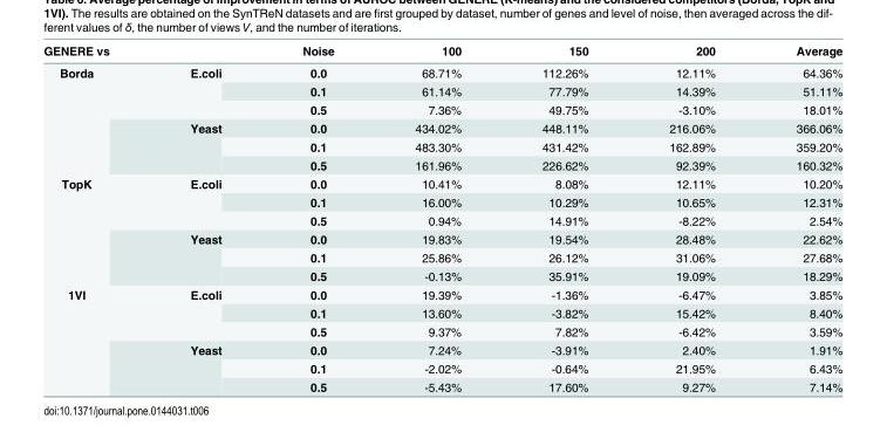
<table><thead><tr><td>GENERE vs</td><td></td><td>Noise</td><td>100</td><td>150</td><td>200</td><td>Average</td></tr></thead><tbody><tr><td rowspan="6">Borda</td><td rowspan="3">E.coli</td><td>0.0</td><td>68.71%</td><td>112.26%</td><td>12.11%</td><td>64.36%</td></tr><tr><td>0.1</td><td>61.14%</td><td>77.79%</td><td>14.39%</td><td>51.11%</td></tr><tr><td>0.5</td><td>7.36%</td><td>49.75%</td><td>-3.10%</td><td>18.01%</td></tr><tr><td rowspan="3">Yeast</td><td>0.0</td><td>434.02%</td><td>448.11%</td><td>216.06%</td><td>366.06%</td></tr><tr><td>0.1</td><td>483.30%</td><td>431.42%</td><td>162.89%</td><td>359.20%</td></tr><tr><td>0.5</td><td>161.96%</td><td>226.62%</td><td>92.39%</td><td>160.32%</td></tr><tr><td rowspan="6">TopK</td><td rowspan="3">E.coli</td><td>0.0</td><td>10.41%</td><td>8.08%</td><td>12.11%</td><td>10.20%</td></tr><tr><td>0.1</td><td>16.00%</td><td>10.29%</td><td>10.65%</td><td>12.31%</td></tr><tr><td>0.5</td><td>0.94%</td><td>14.91%</td><td>-8.22%</td><td>2.54%</td></tr><tr><td rowspan="3">Yeast</td><td>0.0</td><td>19.83%</td><td>19.54%</td><td>28.48%</td><td>22.62%</td></tr><tr><td>0.1</td><td>25.86%</td><td>26.12%</td><td>31.06%</td><td>27.68%</td></tr><tr><td>0.5</td><td>-0.13%</td><td>35.91%</td><td>19.09%</td><td>18.29%</td></tr><tr><td rowspan="6">1VI</td><td rowspan="3">E.coli</td><td>0.0</td><td>19.39%</td><td>-1.36%</td><td>-6.47%</td><td>3.85%</td></tr><tr><td>0.1</td><td>13.60%</td><td>-3.82%</td><td>15.42%</td><td>8.40%</td></tr><tr><td>0.5</td><td>9.37%</td><td>7.82%</td><td>-6.42%</td><td>3.59%</td></tr><tr><td rowspan="3">Yeast</td><td>0.0</td><td>7.24%</td><td>-3.91%</td><td>2.40%</td><td>1.91%</td></tr><tr><td>0.1</td><td>-2.02%</td><td>-0.64%</td><td>21.95%</td><td>6.43%</td></tr><tr><td>0.5</td><td>-5.43%</td><td>17.60%</td><td>9.27%</td><td>7.14%</td></tr></tbody></table>